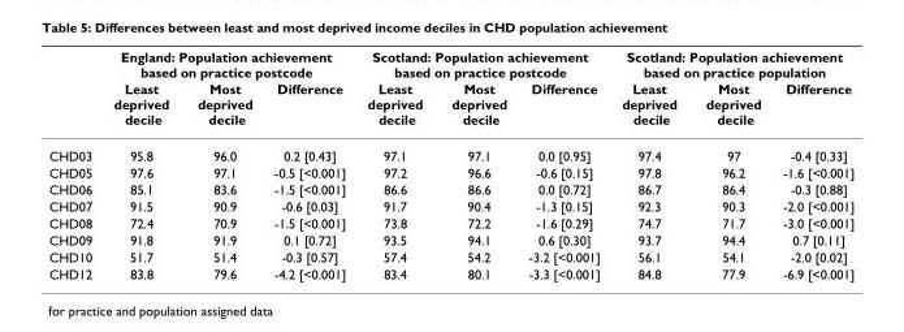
<table><thead><tr><td rowspan="2"></td><td colspan="3">England: Population achievement based on practice postcode</td><td colspan="3">Scotland: Population achievement based on practice postcode</td><td colspan="3">Scotland: Population achievement based on practice population</td></tr><tr><td>Least deprived decile</td><td>Most deprived decile</td><td>Difference</td><td>Least deprived decile</td><td>Most deprived decile</td><td>Difference</td><td>Least deprived decile</td><td>Most deprived decile</td><td>Difference</td></tr></thead><tbody><tr><td>CHD03</td><td>95.8</td><td>96.0</td><td>0.2 [0.43]</td><td>97.1</td><td>97.1</td><td>0.0 [0.95]</td><td>97.4</td><td>97</td><td>-0.4 [0.33]</td></tr><tr><td>CHD05</td><td>97.6</td><td>97.1</td><td>-0.5 [&lt;0.001]</td><td>97.2</td><td>96.6</td><td>-0.6 [0.15]</td><td>97.8</td><td>96.2</td><td>-1.6 [&lt;0.001]</td></tr><tr><td>CHD06</td><td>85.1</td><td>83.6</td><td>-1.5 [&lt;0.001]</td><td>86.6</td><td>86.6</td><td>0.0 [0.72]</td><td>86.7</td><td>86.4</td><td>-0.3 [0.88]</td></tr><tr><td>CHD07</td><td>91.5</td><td>90.9</td><td>-0.6 [0.03]</td><td>91.7</td><td>90.4</td><td>-1.3 [0.15]</td><td>92.3</td><td>90.3</td><td>-2.0 [&lt;0.001]</td></tr><tr><td>CHD08</td><td>72.4</td><td>70.9</td><td>-1.5 [&lt;0.001]</td><td>73.8</td><td>72.2</td><td>-1.6 [0.29]</td><td>74.7</td><td>71.7</td><td>-3.0 [&lt;0.001]</td></tr><tr><td>CHD09</td><td>91.8</td><td>91.9</td><td>0.1 [0.72]</td><td>93.5</td><td>94.1</td><td>0.6 [0.30]</td><td>93.7</td><td>94.4</td><td>0.7 [0.11]</td></tr><tr><td>CHD10</td><td>51.7</td><td>51.4</td><td>-0.3 [0.57]</td><td>57.4</td><td>54.2</td><td>-3.2 [&lt;0.001]</td><td>56.1</td><td>54.1</td><td>-2.0 [0.02]</td></tr><tr><td>CHD12</td><td>83.8</td><td>79.6</td><td>-4.2 [&lt;0.001]</td><td>83.4</td><td>80.1</td><td>-3.3 [&lt;0.001]</td><td>84.8</td><td>77.9</td><td>-6.9 [&lt;0.001]</td></tr></tbody></table>